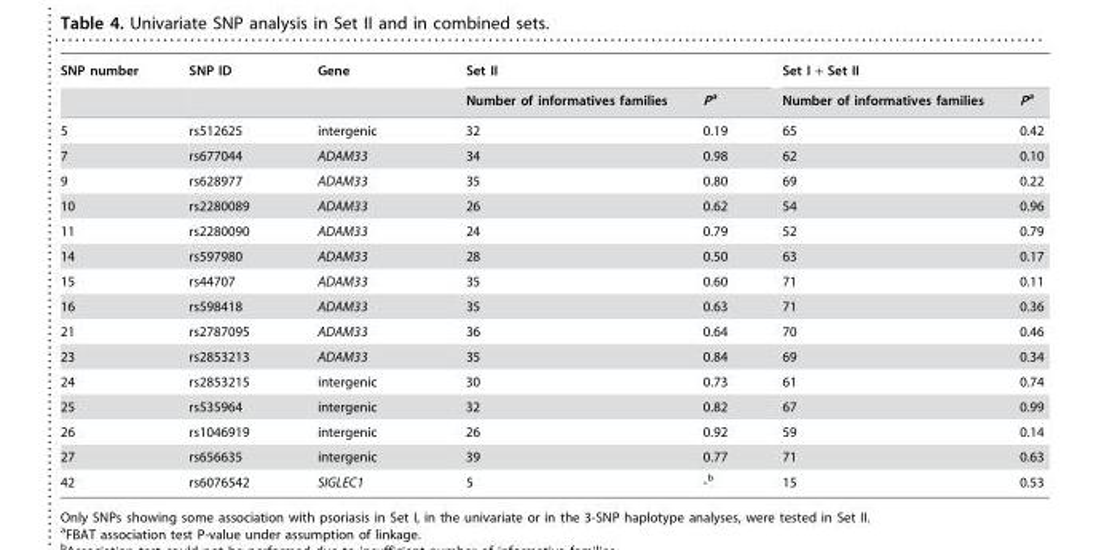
<table><thead><tr><td rowspan="2">SNP number</td><td rowspan="2">SNP ID</td><td rowspan="2">Gene</td><td colspan="2">Set II</td><td colspan="2">Set I + Set II</td></tr><tr><td>Number of informatives families</td><td>Pa</td><td>Number of informatives families</td><td>Pa</td></tr></thead><tbody><tr><td>5</td><td>rs512625</td><td>intergenic</td><td>32</td><td>0.19</td><td>65</td><td>0.42</td></tr><tr><td>7</td><td>rs677044</td><td>ADAM33</td><td>34</td><td>0.98</td><td>62</td><td>0.10</td></tr><tr><td>9</td><td>rs628977</td><td>ADAM33</td><td>35</td><td>0.80</td><td>69</td><td>0.22</td></tr><tr><td>10</td><td>rs2280089</td><td>ADAM33</td><td>26</td><td>0.62</td><td>54</td><td>0.96</td></tr><tr><td>11</td><td>rs2280090</td><td>ADAM33</td><td>24</td><td>0.79</td><td>52</td><td>0.79</td></tr><tr><td>14</td><td>rs597980</td><td>ADAM33</td><td>28</td><td>0.50</td><td>63</td><td>0.17</td></tr><tr><td>15</td><td>rs44707</td><td>ADAM33</td><td>35</td><td>0.60</td><td>71</td><td>0.11</td></tr><tr><td>16</td><td>rs598418</td><td>ADAM33</td><td>35</td><td>0.63</td><td>71</td><td>0.36</td></tr><tr><td>21</td><td>rs2787095</td><td>ADAM33</td><td>36</td><td>0.64</td><td>70</td><td>0.46</td></tr><tr><td>23</td><td>rs2853213</td><td>ADAM33</td><td>35</td><td>0.84</td><td>69</td><td>0.34</td></tr><tr><td>24</td><td>rs2853215</td><td>intergenic</td><td>30</td><td>0.73</td><td>61</td><td>0.74</td></tr><tr><td>25</td><td>rs535964</td><td>intergenic</td><td>32</td><td>0.82</td><td>67</td><td>0.99</td></tr><tr><td>26</td><td>rs1046919</td><td>intergenic</td><td>26</td><td>0.92</td><td>59</td><td>0.14</td></tr><tr><td>27</td><td>rs656635</td><td>intergenic</td><td>39</td><td>0.77</td><td>71</td><td>0.63</td></tr><tr><td>42</td><td>rs6076542</td><td>SIGLEC1</td><td>5</td><td>-b</td><td>15</td><td>0.53</td></tr></tbody></table>